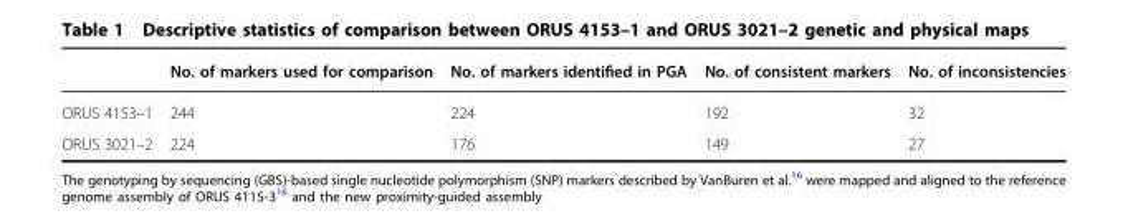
<table><thead><tr><td></td><td>No. of markers used for comparison</td><td>No. of markers identified in PGA</td><td>No. of consistent markers</td><td>No. of inconsistencies</td></tr></thead><tbody><tr><td>ORUS 4153–1</td><td>244</td><td>224</td><td>192</td><td>32</td></tr><tr><td>ORUS 3021–2</td><td>224</td><td>176</td><td>149</td><td>27</td></tr></tbody></table>